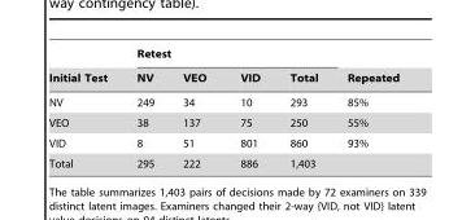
<table><thead><tr><td rowspan="2">Initial Test</td><td colspan="4">Retest</td><td rowspan="2">Repeated</td></tr><tr><td>NV</td><td>VEO</td><td>VID</td><td>Total</td></tr></thead><tbody><tr><td>NV</td><td>249</td><td>34</td><td>10</td><td>293</td><td>85%</td></tr><tr><td>VEO</td><td>38</td><td>137</td><td>75</td><td>250</td><td>55%</td></tr><tr><td>VID</td><td>8</td><td>51</td><td>801</td><td>860</td><td>93%</td></tr><tr><td>Total</td><td>295</td><td>222</td><td>886</td><td>1,403</td><td></td></tr></tbody></table>